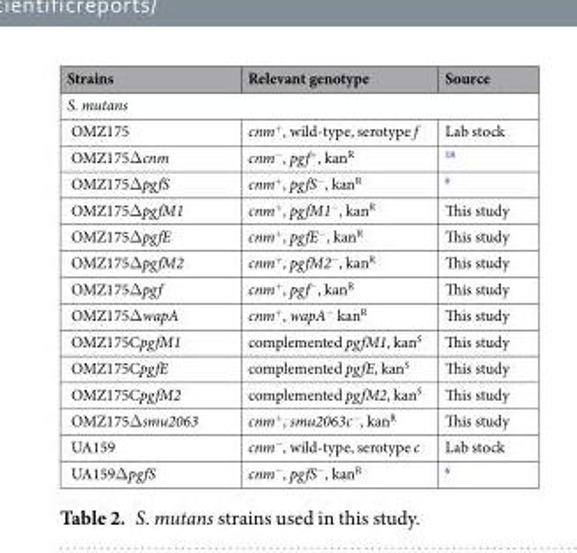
<table><thead><tr><td>Strains</td><td>Relevant genotype</td><td>Source</td></tr></thead><tbody><tr><td colspan="3">S. mutans</td></tr><tr><td>OMZ175</td><td>cnm<sup>+</sup>, wild-type, serotype f</td><td>Lab stock</td></tr><tr><td>OMZ175Δcnm</td><td>cnm<sup>−</sup>, pgf<sup>+</sup>, kan<sup>R</sup></td><td><sup>18</sup></td></tr><tr><td>OMZ175ΔpgfS</td><td>cnm<sup>+</sup>, pgfS<sup>−</sup>, kan<sup>R</sup></td><td><sup>6</sup></td></tr><tr><td>OMZ175ΔpgfM1</td><td>cnm<sup>+</sup>, pgfM1<sup>−</sup>, kan<sup>R</sup></td><td>This study</td></tr><tr><td>OMZ175ΔpgfE</td><td>cnm<sup>+</sup>, pgfE<sup>−</sup>, kan<sup>R</sup></td><td>This study</td></tr><tr><td>OMZ175ΔpgfM2</td><td>cnm<sup>+</sup>, pgfM2<sup>−</sup>, kan<sup>R</sup></td><td>This study</td></tr><tr><td>OMZ175Δpgf</td><td>cnm<sup>+</sup>, pgf<sup>−</sup>, kan<sup>R</sup></td><td>This study</td></tr><tr><td>OMZ175ΔwapA</td><td>cnm<sup>+</sup>, wapA<sup>−</sup> kan<sup>R</sup></td><td>This study</td></tr><tr><td>OMZ175CpgfM1</td><td>complemented pgfM1, kan<sup>S</sup></td><td>This study</td></tr><tr><td>OMZ175CpgfE</td><td>complemented pgfE, kan<sup>S</sup></td><td>This study</td></tr><tr><td>OMZ175CpgfM2</td><td>complemented pgfM2, kan<sup>S</sup></td><td>This study</td></tr><tr><td>OMZ175Δsmu2063</td><td>cnm<sup>+</sup>, smu2063c<sup>−</sup>, kan<sup>R</sup></td><td>This study</td></tr><tr><td>UA159</td><td>cnm<sup>−</sup>, wild-type, serotype c</td><td>Lab stock</td></tr><tr><td>UA159ΔpgfS</td><td>cnm<sup>−</sup>, pgfS<sup>−</sup>, kan<sup>R</sup></td><td><sup>6</sup></td></tr></tbody></table>